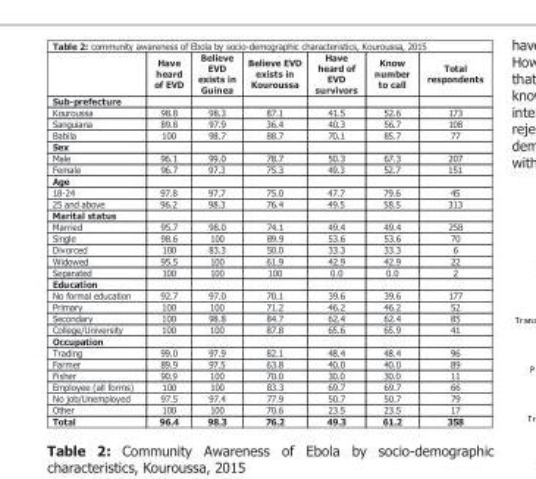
<table><thead><tr><td></td><td>Have heard of EVD</td><td>Believe EVD exists in Guinea</td><td>Believe EVD exists in Kouroussa</td><td>Have heard of EVD survivors</td><td>Know number to call</td><td>Total respondents</td></tr></thead><tbody><tr><td colspan="7">Subprefecture</td></tr><tr><td>Kouroussa</td><td>98.8</td><td>98.3</td><td>87.1</td><td>41.5</td><td>52.6</td><td>173</td></tr><tr><td>Sanguiana</td><td>89.8</td><td>97.9</td><td>36.4</td><td>40.3</td><td>56.7</td><td>108</td></tr><tr><td>Babila</td><td>100</td><td>98.7</td><td>88.7</td><td>70.1</td><td>85.7</td><td>77</td></tr><tr><td colspan="7">Sex</td></tr><tr><td>Male</td><td>96.1</td><td>99.0</td><td>78.7</td><td>50.3</td><td>67.3</td><td>207</td></tr><tr><td>Female</td><td>96.7</td><td>97.3</td><td>75.3</td><td>49.3</td><td>52.7</td><td>151</td></tr><tr><td colspan="7">Age</td></tr><tr><td>1824</td><td>97.8</td><td>97.7</td><td>75.0</td><td>47.7</td><td>79.6</td><td>45</td></tr><tr><td>25 and above</td><td>96.2</td><td>98.3</td><td>76.4</td><td>49.5</td><td>58.5</td><td>313</td></tr><tr><td colspan="7">Marital status</td></tr><tr><td>Married</td><td>95.7</td><td>98.0</td><td>74.1</td><td>49.4</td><td>49.4</td><td>258</td></tr><tr><td>Single</td><td>98.6</td><td>100</td><td>89.9</td><td>53.6</td><td>53.6</td><td>70</td></tr><tr><td>Divorced</td><td>100</td><td>83.3</td><td>50.0</td><td>33.3</td><td>33.3</td><td>6</td></tr><tr><td>Widowed</td><td>95.5</td><td>100</td><td>61.9</td><td>42.9</td><td>42.9</td><td>22</td></tr><tr><td>Separated</td><td>100</td><td>100</td><td>100</td><td>0.0</td><td>0.0</td><td>2</td></tr><tr><td colspan="7">Education</td></tr><tr><td>No formal education</td><td>92.7</td><td>97.0</td><td>70.1</td><td>39.6</td><td>39.6</td><td>177</td></tr><tr><td>Primary</td><td>100</td><td>100</td><td>71.2</td><td>46.2</td><td>46.2</td><td>52</td></tr><tr><td>Secondary</td><td>100</td><td>98.8</td><td>84.7</td><td>62.4</td><td>62.4</td><td>85</td></tr><tr><td>College/University</td><td>100</td><td>100</td><td>87.8</td><td>65.6</td><td>65.9</td><td>41</td></tr><tr><td colspan="7">Occupation</td></tr><tr><td>Trading</td><td>99.0</td><td>97.9</td><td>82.1</td><td>48.4</td><td>48.4</td><td>96</td></tr><tr><td>Farmer</td><td>89.9</td><td>97.5</td><td>63.8</td><td>40.0</td><td>40.0</td><td>89</td></tr><tr><td>Fisher</td><td>90.9</td><td>100</td><td>70.0</td><td>30.0</td><td>30.0</td><td>11</td></tr><tr><td>Employee (all forms)</td><td>100</td><td>100</td><td>83.3</td><td>69.7</td><td>69.7</td><td>66</td></tr><tr><td>No job/Unemployed</td><td>97.5</td><td>97.4</td><td>77.9</td><td>50.7</td><td>50.7</td><td>79</td></tr><tr><td>Other</td><td>100</td><td>100</td><td>70.6</td><td>23.5</td><td>23.5</td><td>17</td></tr><tr><td>Total</td><td>96.4</td><td>98.3</td><td>76.2</td><td>49.3</td><td>61.2</td><td>358</td></tr></tbody></table>